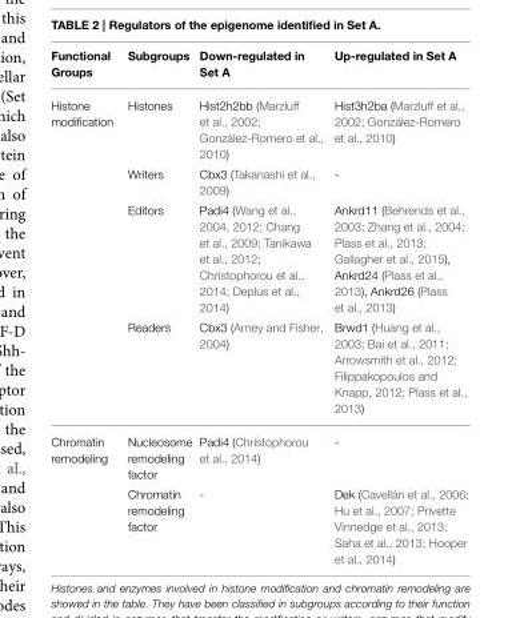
<table><thead><tr><td>Functional Groups</td><td>Subgroups</td><td>Down-regulated in Set A</td><td>Up-regulated in Set A</td></tr></thead><tbody><tr><td rowspan="4">Histone modification</td><td>Histones</td><td>Hist2h2bb (Marzluff et al., 2002; González-Romero et al., 2010)</td><td>Hist3h2ba (Marzluff et al., 2002; González-Romero et al., 2010)</td></tr><tr><td>Writers</td><td>Cbx3 (Takanashi et al., 2009)</td><td>-</td></tr><tr><td>Editors</td><td>Padi4 (Wang et al., 2004, 2012; Chang et al., 2009; Tanikawa et al., 2012; Christophorou et al., 2014; Deplus et al., 2014)</td><td>Ankrd11 (Behrends et al., 2003; Zhang et al., 2004; Plass et al., 2013; Gallagher et al., 2015), Ankrd24 (Plass et al., 2013), Ankrd26 (Plass et al., 2013)</td></tr><tr><td>Readers</td><td>Cbx3 (Arney and Fisher, 2004)</td><td>Brwd1 (Huang et al., 2003; Bai et al., 2011; Arrowsmith et al., 2012; Filippakopoulos and Knapp, 2012; Plass et al., 2013)</td></tr><tr><td rowspan="2">Chromatin remodeling</td><td>Nucleosome remodeling factor</td><td>Padi4 (Christophorou et al., 2014)</td><td>-</td></tr><tr><td>Chromatin remodeling factor</td><td>-</td><td>Dek (Cavellán et al., 2006; Hu et al., 2007; Privette Vinnedge et al., 2013; Saha et al., 2013; Hooper et al., 2014)</td></tr></tbody></table>